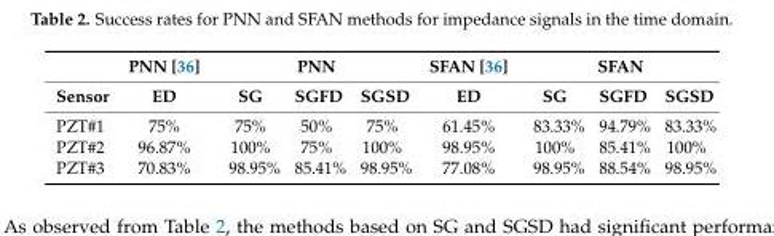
<table><thead><tr><td rowspan="2">Sensor</td><td rowspan="2">PNN [36] ED</td><td colspan="3">PNN</td><td rowspan="2">SFAN [36] ED</td><td colspan="3">SFAN</td></tr><tr><td>SG</td><td>SGFD</td><td>SGSD</td><td>SG</td><td>SGFD</td><td>SGSD</td></tr></thead><tbody><tr><td>PZT#1</td><td>75%</td><td>75%</td><td>50%</td><td>75%</td><td>61.45%</td><td>83.33%</td><td>94.79%</td><td>83.33%</td></tr><tr><td>PZT#2</td><td>96.87%</td><td>100%</td><td>75%</td><td>100%</td><td>98.95%</td><td>100%</td><td>85.41%</td><td>100%</td></tr><tr><td>PZT#3</td><td>70.83%</td><td>98.95%</td><td>85.41%</td><td>98.95%</td><td>77.08%</td><td>98.95%</td><td>88.54%</td><td>98.95%</td></tr></tbody></table>